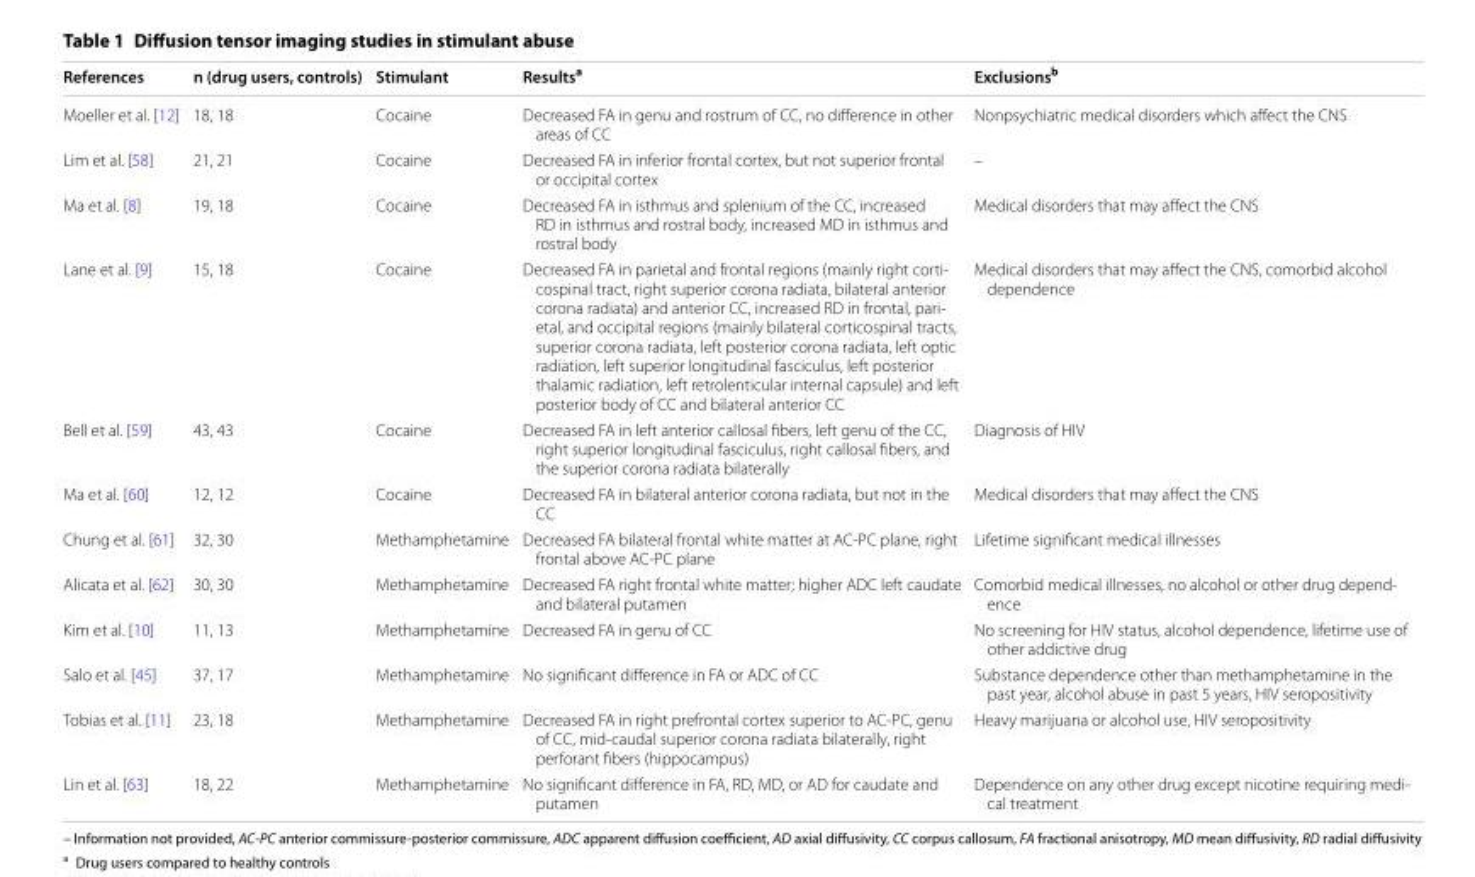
<table><thead><tr><td>References</td><td>n (drug users, controls)</td><td>Stimulant</td><td>Results<sup>a</sup></td><td>Exclusions<sup>b</sup></td></tr></thead><tbody><tr><td>Moeller et al. [12]</td><td>18, 18</td><td>Cocaine</td><td>Decreased FA in genu and rostrum of CC, no difference in other areas of CC</td><td>Nonpsychiatric medical disorders which affect the CNS</td></tr><tr><td>Lim et al. [58]</td><td>21, 21</td><td>Cocaine</td><td>Decreased FA in inferior frontal cortex, but not superior frontal or occipital cortex</td><td>–</td></tr><tr><td>Ma et al. [8]</td><td>19, 18</td><td>Cocaine</td><td>Decreased FA in isthmus and splenium of the CC, increased RD in isthmus and rostral body, increased MD in isthmus and rostral body</td><td>Medical disorders that may affect the CNS</td></tr><tr><td>Lane et al. [9]</td><td>15, 18</td><td>Cocaine</td><td>Decreased FA in parietal and frontal regions (mainly right corti‑ cospinal tract, right superior corona radiata, bilateral anterior corona radiata) and anterior CC, increased RD in frontal, pari‑ etal, and occipital regions (mainly bilateral corticospinal tracts, superior corona radiata, left posterior corona radiata, left optic radiation, left superior longitudinal fasciculus, left posterior thalamic radiation, left retrolenticular internal capsule) and left posterior body of CC and bilateral anterior CC</td><td>Medical disorders that may affect the CNS, comorbid alcohol dependence</td></tr><tr><td>Bell et al. [59]</td><td>43, 43</td><td>Cocaine</td><td>Decreased FA in left anterior callosal fibers, left genu of the CC, right superior longitudinal fasciculus, right callosal fibers, and the superior corona radiata bilaterally</td><td>Diagnosis of HIV</td></tr><tr><td>Ma et al. [60]</td><td>12, 12</td><td>Cocaine</td><td>Decreased FA in bilateral anterior corona radiata, but not in the CC</td><td>Medical disorders that may affect the CNS</td></tr><tr><td>Chung et al. [61]</td><td>32, 30</td><td>Methamphetamine</td><td>Decreased FA bilateral frontal white matter at AC‑PC plane, right frontal above AC‑PC plane</td><td>Lifetime significant medical illnesses</td></tr><tr><td>Alicata et al. [62]</td><td>30, 30</td><td>Methamphetamine</td><td>Decreased FA right frontal white matter; higher ADC left caudate and bilateral putamen</td><td>Comorbid medical illnesses, no alcohol or other drug depend‑ ence</td></tr><tr><td>Kim et al. [10]</td><td>11, 13</td><td>Methamphetamine</td><td>Decreased FA in genu of CC</td><td>No screening for HIV status, alcohol dependence, lifetime use of other addictive drug</td></tr><tr><td>Salo et al. [45]</td><td>37, 17</td><td>Methamphetamine</td><td>No significant difference in FA or ADC of CC</td><td>Substance dependence other than methamphetamine in the past year, alcohol abuse in past 5 years, HIV seropositivity</td></tr><tr><td>Tobias et al. [11]</td><td>23, 18</td><td>Methamphetamine</td><td>Decreased FA in right prefrontal cortex superior to AC‑PC, genu of CC, mid‑caudal superior corona radiata bilaterally, right perforant fibers (hippocampus)</td><td>Heavy marijuana or alcohol use, HIV seropositivity</td></tr><tr><td>Lin et al. [63]</td><td>18, 22</td><td>Methamphetamine</td><td>No significant difference in FA, RD, MD, or AD for caudate and putamen</td><td>Dependence on any other drug except nicotine requiring medi‑ cal treatment</td></tr></tbody></table>